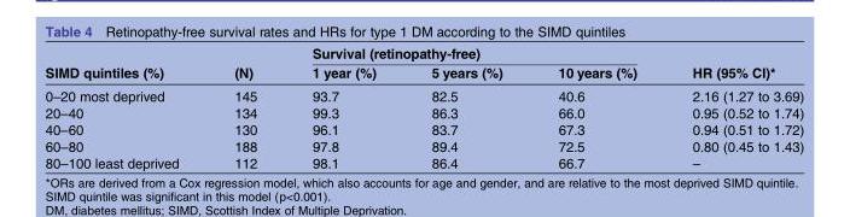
<table><thead><tr><td rowspan="2">SIMD quintiles (%)</td><td rowspan="2">(N)</td><td colspan="3">Survival (retinopathy-free)</td><td rowspan="2">HR (95% CI)*</td></tr><tr><td>1 year (%)</td><td>5 years (%)</td><td>10 years (%)</td></tr></thead><tbody><tr><td>0–20 most deprived</td><td>145</td><td>93.7</td><td>82.5</td><td>40.6</td><td>2.16 (1.27 to 3.69)</td></tr><tr><td>20–40</td><td>134</td><td>99.3</td><td>86.3</td><td>66.0</td><td>0.95 (0.52 to 1.74)</td></tr><tr><td>40–60</td><td>130</td><td>96.1</td><td>83.7</td><td>67.3</td><td>0.94 (0.51 to 1.72)</td></tr><tr><td>60–80</td><td>188</td><td>97.8</td><td>89.4</td><td>72.5</td><td>0.80 (0.45 to 1.43)</td></tr><tr><td>80–100 least deprived</td><td>112</td><td>98.1</td><td>86.4</td><td>66.7</td><td>–</td></tr></tbody></table>